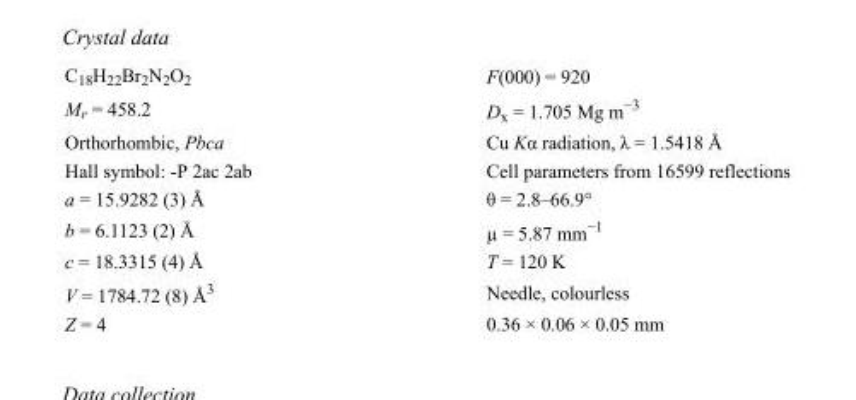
<table><tbody><tr><td>C<sub>18</sub>H<sub>22</sub>Br<sub>2</sub>N<sub>2</sub>O<sub>2</sub></td><td>F(000) = 920</td></tr><tr><td>M<sub>r</sub> = 458.2</td><td>D<sub>x</sub> = 1.705 Mg m<sup>−3</sup></td></tr><tr><td>Orthorhombic, Pbca</td><td>Cu Kα radiation, λ = 1.5418 Å</td></tr><tr><td>Hall symbol: -P 2ac 2ab</td><td>Cell parameters from 16599 reflections</td></tr><tr><td>a = 15.9282 (3) Å</td><td>θ = 2.8–66.9°</td></tr><tr><td>b = 6.1123 (2) Å</td><td>µ = 5.87 mm<sup>−1</sup></td></tr><tr><td>c = 18.3315 (4) Å</td><td>T = 120 K</td></tr><tr><td>V = 1784.72 (8) Å<sup>3</sup></td><td>Needle, colourless</td></tr><tr><td>Z = 4</td><td>0.36 × 0.06 × 0.05 mm</td></tr></tbody></table>